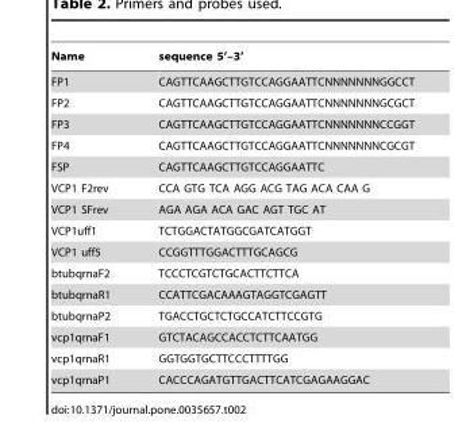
<table><thead><tr><td>Name</td><td>sequence 5’–3’</td></tr></thead><tbody><tr><td>FP1</td><td>CAGTTCAAGCTTGTCCAGGAATTCNNNNNNNGGCCT</td></tr><tr><td>FP2</td><td>CAGTTCAAGCTTGTCCAGGAATTCNNNNNNNGCGCT</td></tr><tr><td>FP3</td><td>CAGTTCAAGCTTGTCCAGGAATTCNNNNNNNCCGGT</td></tr><tr><td>FP4</td><td>CAGTTCAAGCTTGTCCAGGAATTCNNNNNNNCGCGT</td></tr><tr><td>FSP</td><td>CAGTTCAAGCTTGTCCAGGAATTC</td></tr><tr><td>VCP1 F2rev</td><td>CCA GTG TCA AGG ACG TAG ACA CAA G</td></tr><tr><td>VCP1 SFrev</td><td>AGA AGA ACA GAC AGT TGC AT</td></tr><tr><td>VCP1uff1</td><td>TCTGGACTATGGCGATCATGGT</td></tr><tr><td>VCP1 uff5</td><td>CCGGTTTGGACTTTGCAGCG</td></tr><tr><td>btubqrnaF2</td><td>TCCCTCGTCTGCACTTCTTCA</td></tr><tr><td>btubqrnaR1</td><td>CCATTCGACAAAGTAGGTCGAGTT</td></tr><tr><td>btubqrnaP2</td><td>TGACCTGCTCTGCCATCTTCCGTG</td></tr><tr><td>vcp1qrnaF1</td><td>GTCTACAGCCACCTCTTCAATGG</td></tr><tr><td>vcp1qrnaR1</td><td>GGTGGTGCTTCCCTTTTGG</td></tr><tr><td>vcp1qrnaP1</td><td>CACCCAGATGTTGACTTCATCGAGAAGGAC</td></tr></tbody></table>